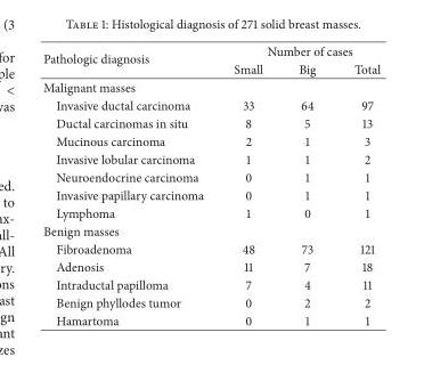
<table><thead><tr><td rowspan="2">Pathologic diagnosis</td><td colspan="3">Number of cases</td></tr><tr><td>Small</td><td>Big</td><td>Total</td></tr></thead><tbody><tr><td colspan="4">Malignant masses</td></tr><tr><td>Invasive ductal carcinoma</td><td>33</td><td>64</td><td>97</td></tr><tr><td>Ductal carcinomas in situ</td><td>8</td><td>5</td><td>13</td></tr><tr><td>Mucinous carcinoma</td><td>2</td><td>1</td><td>3</td></tr><tr><td>Invasive lobular carcinoma</td><td>1</td><td>1</td><td>2</td></tr><tr><td>Neuroendocrine carcinoma</td><td>0</td><td>1</td><td>1</td></tr><tr><td>Invasive papillary carcinoma</td><td>0</td><td>1</td><td>1</td></tr><tr><td>Lymphoma</td><td>1</td><td>0</td><td>1</td></tr><tr><td colspan="4">Benign masses</td></tr><tr><td>Fibroadenoma</td><td>48</td><td>73</td><td>121</td></tr><tr><td>Adenosis</td><td>11</td><td>7</td><td>18</td></tr><tr><td>Intraductal papilloma</td><td>7</td><td>4</td><td>11</td></tr><tr><td>Benign phyllodes tumor</td><td>0</td><td>2</td><td>2</td></tr><tr><td>Hamartoma</td><td>0</td><td>1</td><td>1</td></tr></tbody></table>